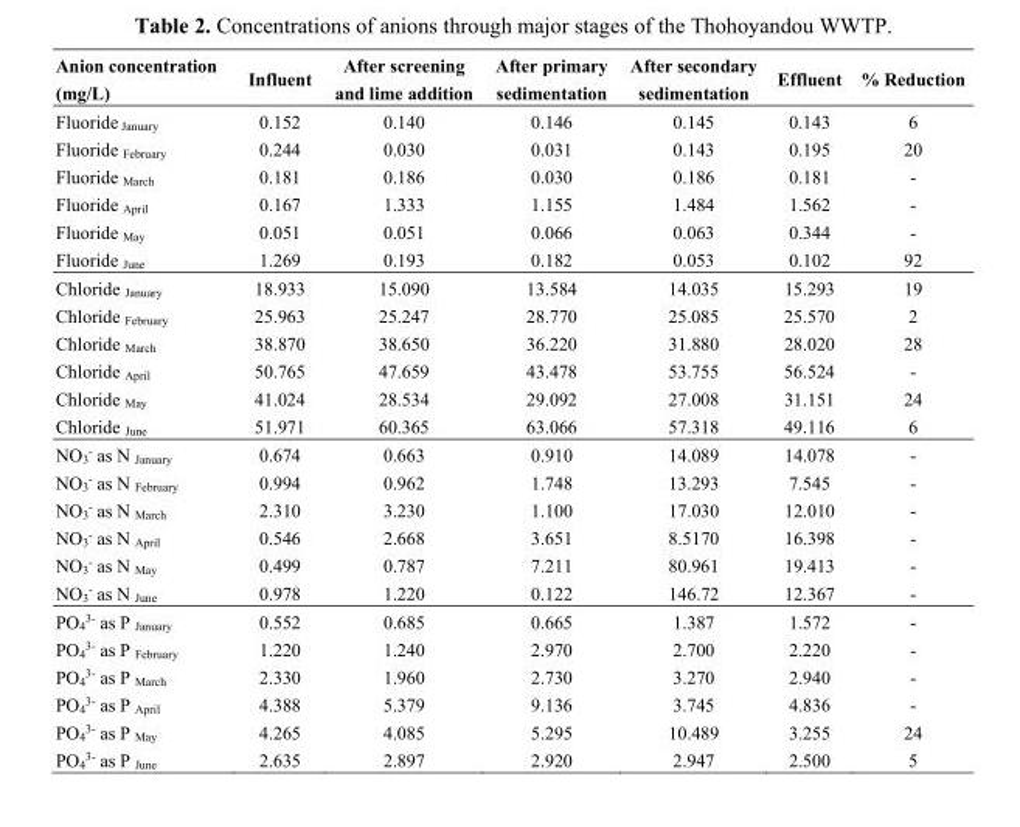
<table><thead><tr><td>Anion concentration (mg/L)</td><td>Influent</td><td>After screening and lime addition</td><td>After primary sedimentation</td><td>After secondary sedimentation</td><td>Effluent</td><td>% Reduction</td></tr></thead><tbody><tr><td>Fluoride <sub>January</sub></td><td>0.152</td><td>0.140</td><td>0.146</td><td>0.145</td><td>0.143</td><td>6</td></tr><tr><td>Fluoride <sub>February</sub></td><td>0.244</td><td>0.030</td><td>0.031</td><td>0.143</td><td>0.195</td><td>20</td></tr><tr><td>Fluoride <sub>March</sub></td><td>0.181</td><td>0.186</td><td>0.030</td><td>0.186</td><td>0.181</td><td>-</td></tr><tr><td>Fluoride <sub>April</sub></td><td>0.167</td><td>1.333</td><td>1.155</td><td>1.484</td><td>1.562</td><td>-</td></tr><tr><td>Fluoride <sub>May</sub></td><td>0.051</td><td>0.051</td><td>0.066</td><td>0.063</td><td>0.344</td><td>-</td></tr><tr><td>Fluoride <sub>June</sub></td><td>1.269</td><td>0.193</td><td>0.182</td><td>0.053</td><td>0.102</td><td>92</td></tr><tr><td>Chloride <sub>January</sub></td><td>18.933</td><td>15.090</td><td>13.584</td><td>14.035</td><td>15.293</td><td>19</td></tr><tr><td>Chloride <sub>February</sub></td><td>25.963</td><td>25.247</td><td>28.770</td><td>25.085</td><td>25.570</td><td>2</td></tr><tr><td>Chloride <sub>March</sub></td><td>38.870</td><td>38.650</td><td>36.220</td><td>31.880</td><td>28.020</td><td>28</td></tr><tr><td>Chloride <sub>April</sub></td><td>50.765</td><td>47.659</td><td>43.478</td><td>53.755</td><td>56.524</td><td>-</td></tr><tr><td>Chloride <sub>May</sub></td><td>41.024</td><td>28.534</td><td>29.092</td><td>27.008</td><td>31.151</td><td>24</td></tr><tr><td>Chloride <sub>June</sub></td><td>51.971</td><td>60.365</td><td>63.066</td><td>57.318</td><td>49.116</td><td>6</td></tr><tr><td>NO<sub>3</sub><sup>-</sup> as N <sub>January</sub></td><td>0.674</td><td>0.663</td><td>0.910</td><td>14.089</td><td>14.078</td><td>-</td></tr><tr><td>NO<sub>3</sub><sup>-</sup> as N <sub>February</sub></td><td>0.994</td><td>0.962</td><td>1.748</td><td>13.293</td><td>7.545</td><td>-</td></tr><tr><td>NO<sub>3</sub><sup>-</sup> as N <sub>March</sub></td><td>2.310</td><td>3.230</td><td>1.100</td><td>17.030</td><td>12.010</td><td>-</td></tr><tr><td>NO<sub>3</sub><sup>-</sup> as N <sub>April</sub></td><td>0.546</td><td>2.668</td><td>3.651</td><td>8.5170</td><td>16.398</td><td>-</td></tr><tr><td>NO<sub>3</sub><sup>-</sup> as N <sub>May</sub></td><td>0.499</td><td>0.787</td><td>7.211</td><td>80.961</td><td>19.413</td><td>-</td></tr><tr><td>NO<sub>3</sub><sup>-</sup> as N <sub>June</sub></td><td>0.978</td><td>1.220</td><td>0.122</td><td>146.72</td><td>12.367</td><td>-</td></tr><tr><td>PO<sub>4</sub><sup>3-</sup> as P <sub>January</sub></td><td>0.552</td><td>0.685</td><td>0.665</td><td>1.387</td><td>1.572</td><td>-</td></tr><tr><td>PO<sub>4</sub><sup>3-</sup> as P <sub>February</sub></td><td>1.220</td><td>1.240</td><td>2.970</td><td>2.700</td><td>2.220</td><td>-</td></tr><tr><td>PO<sub>4</sub><sup>3-</sup> as P <sub>March</sub></td><td>2.330</td><td>1.960</td><td>2.730</td><td>3.270</td><td>2.940</td><td>-</td></tr><tr><td>PO<sub>4</sub><sup>3-</sup> as P <sub>April</sub></td><td>4.388</td><td>5.379</td><td>9.136</td><td>3.745</td><td>4.836</td><td>-</td></tr><tr><td>PO<sub>4</sub><sup>3-</sup> as P <sub>May</sub></td><td>4.265</td><td>4.085</td><td>5.295</td><td>10.489</td><td>3.255</td><td>24</td></tr><tr><td>PO<sub>4</sub><sup>3-</sup> as P <sub>June</sub></td><td>2.635</td><td>2.897</td><td>2.920</td><td>2.947</td><td>2.500</td><td>5</td></tr></tbody></table>